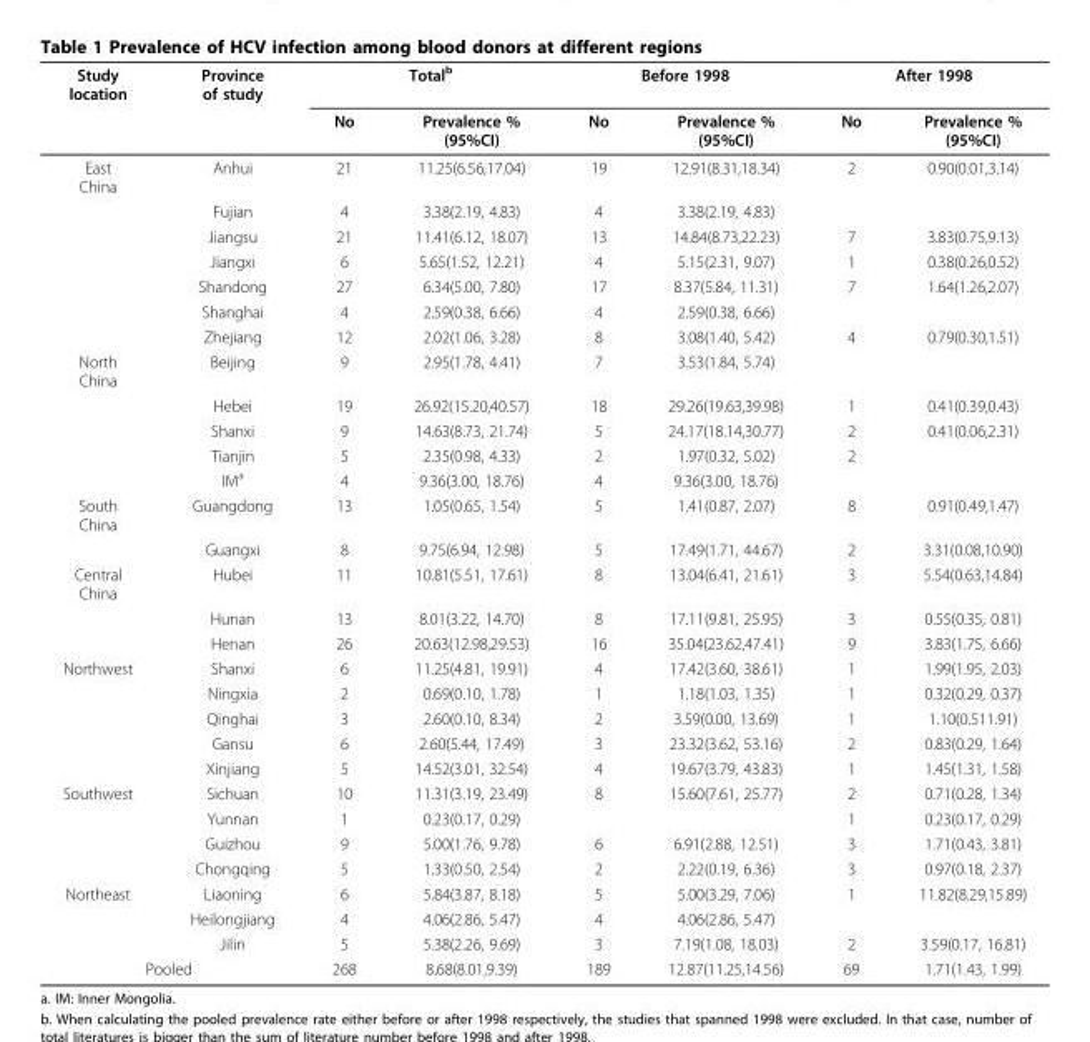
<table><thead><tr><td rowspan="2">Study location</td><td rowspan="2">Province of study</td><td colspan="2">Total<sup>b</sup></td><td colspan="2">Before 1998</td><td colspan="2">After 1998</td></tr><tr><td>No</td><td>Prevalence % (95%CI)</td><td>No</td><td>Prevalence % (95%CI)</td><td>No</td><td>Prevalence % (95%CI)</td></tr></thead><tbody><tr><td rowspan="7">East China</td><td>Anhui</td><td>21</td><td>11.25(6.56,17.04)</td><td>19</td><td>12.91(8.31,18.34)</td><td>2</td><td>0.90(0.01,3.14)</td></tr><tr><td>Fujian</td><td>4</td><td>3.38(2.19, 4.83)</td><td>4</td><td>3.38(2.19, 4.83)</td><td></td><td></td></tr><tr><td>Jiangsu</td><td>21</td><td>11.41(6.12, 18.07)</td><td>13</td><td>14.84(8.73,22.23)</td><td>7</td><td>3.83(0.75,9.13)</td></tr><tr><td>Jiangxi</td><td>6</td><td>5.65(1.52, 12.21)</td><td>4</td><td>5.15(2.31, 9.07)</td><td>1</td><td>0.38(0.26,0.52)</td></tr><tr><td>Shandong</td><td>27</td><td>6.34(5.00, 7.80)</td><td>17</td><td>8.37(5.84, 11.31)</td><td>7</td><td>1.64(1.26,2.07)</td></tr><tr><td>Shanghai</td><td>4</td><td>2.59(0.38, 6.66)</td><td>4</td><td>2.59(0.38, 6.66)</td><td></td><td></td></tr><tr><td>Zhejiang</td><td>12</td><td>2.02(1.06, 3.28)</td><td>8</td><td>3.08(1.40, 5.42)</td><td>4</td><td>0.79(0.30,1.51)</td></tr><tr><td rowspan="5">North China</td><td>Beijing</td><td>9</td><td>2.95(1.78, 4.41)</td><td>7</td><td>3.53(1.84, 5.74)</td><td></td><td></td></tr><tr><td>Hebei</td><td>19</td><td>26.92(15.20,40.57)</td><td>18</td><td>29.26(19.63,39.98)</td><td>1</td><td>0.41(0.39,0.43)</td></tr><tr><td>Shanxi</td><td>9</td><td>14.63(8.73, 21.74)</td><td>5</td><td>24.17(18.14,30.77)</td><td>2</td><td>0.41(0.06,2.31)</td></tr><tr><td>Tianjin</td><td>5</td><td>2.35(0.98, 4.33)</td><td>2</td><td>1.97(0.32, 5.02)</td><td>2</td><td></td></tr><tr><td>IM<sup>a</sup></td><td>4</td><td>9.36(3.00, 18.76)</td><td>4</td><td>9.36(3.00, 18.76)</td><td></td><td></td></tr><tr><td rowspan="2">South China</td><td>Guangdong</td><td>13</td><td>1.05(0.65, 1.54)</td><td>5</td><td>1.41(0.87, 2.07)</td><td>8</td><td>0.91(0.49,1.47)</td></tr><tr><td>Guangxi</td><td>8</td><td>9.75(6.94, 12.98)</td><td>5</td><td>17.49(1.71, 44.67)</td><td>2</td><td>3.31(0.08,10.90)</td></tr><tr><td rowspan="3">Central China</td><td>Hubei</td><td>11</td><td>10.81(5.51, 17.61)</td><td>8</td><td>13.04(6.41, 21.61)</td><td>3</td><td>5.54(0.63,14.84)</td></tr><tr><td>Hunan</td><td>13</td><td>8.01(3.22, 14.70)</td><td>8</td><td>17.11(9.81, 25.95)</td><td>3</td><td>0.55(0.35, 0.81)</td></tr><tr><td>Henan</td><td>26</td><td>20.63(12.98,29.53)</td><td>16</td><td>35.04(23.62,47.41)</td><td>9</td><td>3.83(1.75, 6.66)</td></tr><tr><td rowspan="5">Northwest</td><td>Shanxi</td><td>6</td><td>11.25(4.81, 19.91)</td><td>4</td><td>17.42(3.60, 38.61)</td><td>1</td><td>1.99(1.95, 2.03)</td></tr><tr><td>Ningxia</td><td>2</td><td>0.69(0.10, 1.78)</td><td>1</td><td>1.18(1.03, 1.35)</td><td>1</td><td>0.32(0.29, 0.37)</td></tr><tr><td>Qinghai</td><td>3</td><td>2.60(0.10, 8.34)</td><td>2</td><td>3.59(0.00, 13.69)</td><td>1</td><td>1.10(0.511.91)</td></tr><tr><td>Gansu</td><td>6</td><td>2.60(5.44, 17.49)</td><td>3</td><td>23.32(3.62, 53.16)</td><td>2</td><td>0.83(0.29, 1.64)</td></tr><tr><td>Xinjiang</td><td>5</td><td>14.52(3.01, 32.54)</td><td>4</td><td>19.67(3.79, 43.83)</td><td>1</td><td>1.45(1.31, 1.58)</td></tr><tr><td rowspan="4">Southwest</td><td>Sichuan</td><td>10</td><td>11.31(3.19, 23.49)</td><td>8</td><td>15.60(7.61, 25.77)</td><td>2</td><td>0.71(0.28, 1.34)</td></tr><tr><td>Yunnan</td><td>1</td><td>0.23(0.17, 0.29)</td><td></td><td></td><td>1</td><td>0.23(0.17, 0.29)</td></tr><tr><td>Guizhou</td><td>9</td><td>5.00(1.76, 9.78)</td><td>6</td><td>6.91(2.88, 12.51)</td><td>3</td><td>1.71(0.43, 3.81)</td></tr><tr><td>Chongqing</td><td>5</td><td>1.33(0.50, 2.54)</td><td>2</td><td>2.22(0.19, 6.36)</td><td>3</td><td>0.97(0.18, 2.37)</td></tr><tr><td rowspan="3">Northeast</td><td>Liaoning</td><td>6</td><td>5.84(3.87, 8.18)</td><td>5</td><td>5.00(3.29, 7.06)</td><td>1</td><td>11.82(8.29,15.89)</td></tr><tr><td>Heilongjiang</td><td>4</td><td>4.06(2.86, 5.47)</td><td>4</td><td>4.06(2.86, 5.47)</td><td></td><td></td></tr><tr><td>Jilin</td><td>5</td><td>5.38(2.26, 9.69)</td><td>3</td><td>7.19(1.08, 18.03)</td><td>2</td><td>3.59(0.17, 16.81)</td></tr><tr><td colspan="2">Pooled</td><td>268</td><td>8.68(8.01,9.39)</td><td>189</td><td>12.87(11.25,14.56)</td><td>69</td><td>1.71(1.43, 1.99)</td></tr></tbody></table>